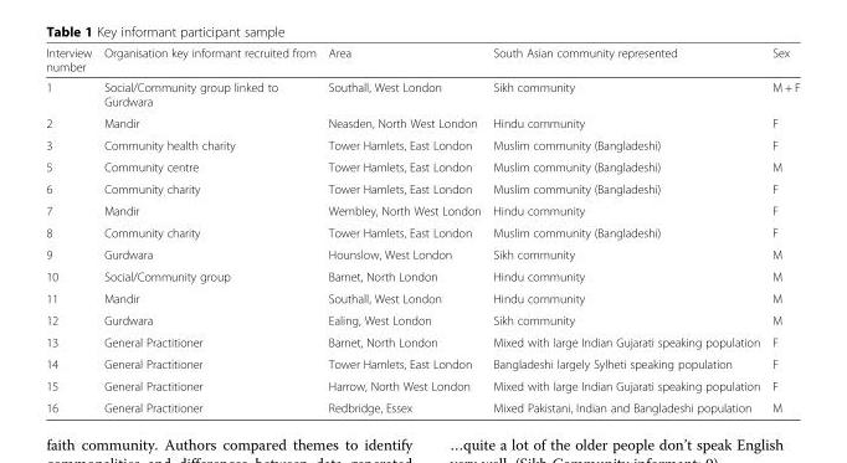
<table><thead><tr><td>Interview number</td><td>Organisation key informant recruited from</td><td>Area</td><td>South Asian community represented</td><td>Sex</td></tr></thead><tbody><tr><td>1</td><td>Social/Community group linked to Gurdwara</td><td>Southall, West London</td><td>Sikh community</td><td>M + F</td></tr><tr><td>2</td><td>Mandir</td><td>Neasden, North West London</td><td>Hindu community</td><td>F</td></tr><tr><td>3</td><td>Community health charity</td><td>Tower Hamlets, East London</td><td>Muslim community (Bangladeshi)</td><td>F</td></tr><tr><td>5</td><td>Community centre</td><td>Tower Hamlets, East London</td><td>Muslim community (Bangladeshi)</td><td>M</td></tr><tr><td>6</td><td>Community charity</td><td>Tower Hamlets, East London</td><td>Muslim community (Bangladeshi)</td><td>F</td></tr><tr><td>7</td><td>Mandir</td><td>Wembley, North West London</td><td>Hindu community</td><td>F</td></tr><tr><td>8</td><td>Community charity</td><td>Tower Hamlets, East London</td><td>Muslim community (Bangladeshi)</td><td>F</td></tr><tr><td>9</td><td>Gurdwara</td><td>Hounslow, West London</td><td>Sikh community</td><td>M</td></tr><tr><td>10</td><td>Social/Community group</td><td>Barnet, North London</td><td>Hindu community</td><td>M</td></tr><tr><td>11</td><td>Mandir</td><td>Southall, West London</td><td>Hindu community</td><td>M</td></tr><tr><td>12</td><td>Gurdwara</td><td>Ealing, West London</td><td>Sikh community</td><td>M</td></tr><tr><td>13</td><td>General Practitioner</td><td>Barnet, North London</td><td>Mixed with large Indian Gujarati speaking population</td><td>F</td></tr><tr><td>14</td><td>General Practitioner</td><td>Tower Hamlets, East London</td><td>Bangladeshi largely Sylheti speaking population</td><td>F</td></tr><tr><td>15</td><td>General Practitioner</td><td>Harrow, North West London</td><td>Mixed with large Indian Gujarati speaking population</td><td>F</td></tr><tr><td>16</td><td>General Practitioner</td><td>Redbridge, Essex</td><td>Mixed Pakistani, Indian and Bangladeshi population</td><td>M</td></tr></tbody></table>